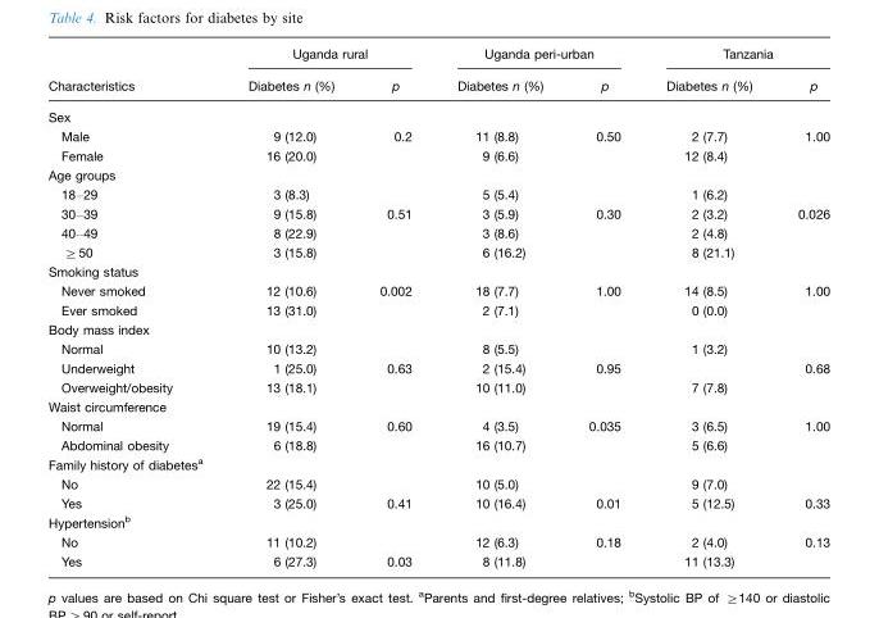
<table><thead><tr><td rowspan="2">Characteristics</td><td colspan="2">Uganda rural</td><td colspan="2">Uganda peri-urban</td><td colspan="2">Tanzania</td></tr><tr><td>Diabetes n (%)</td><td>p</td><td>Diabetes n (%)</td><td>p</td><td>Diabetes n (%)</td><td>p</td></tr></thead><tbody><tr><td colspan="7">Sex</td></tr><tr><td>Male</td><td>9 (12.0)</td><td>0.2</td><td>11 (8.8)</td><td>0.50</td><td>2 (7.7)</td><td>1.00</td></tr><tr><td>Female</td><td>16 (20.0)</td><td></td><td>9 (6.6)</td><td></td><td>12 (8.4)</td><td></td></tr><tr><td colspan="7">Age groups</td></tr><tr><td>18–29</td><td>3 (8.3)</td><td></td><td>5 (5.4)</td><td></td><td>1 (6.2)</td><td></td></tr><tr><td>30–39</td><td>9 (15.8)</td><td>0.51</td><td>3 (5.9)</td><td>0.30</td><td>2 (3.2)</td><td>0.026</td></tr><tr><td>40–49</td><td>8 (22.9)</td><td></td><td>3 (8.6)</td><td></td><td>2 (4.8)</td><td></td></tr><tr><td>≥50</td><td>3 (15.8)</td><td></td><td>6 (16.2)</td><td></td><td>8 (21.1)</td><td></td></tr><tr><td colspan="7">Smoking status</td></tr><tr><td>Never smoked</td><td>12 (10.6)</td><td>0.002</td><td>18 (7.7)</td><td>1.00</td><td>14 (8.5)</td><td>1.00</td></tr><tr><td>Ever smoked</td><td>13 (31.0)</td><td></td><td>2 (7.1)</td><td></td><td>0 (0.0)</td><td></td></tr><tr><td colspan="7">Body mass index</td></tr><tr><td>Normal</td><td>10 (13.2)</td><td></td><td>8 (5.5)</td><td></td><td>1 (3.2)</td><td></td></tr><tr><td>Underweight</td><td>1 (25.0)</td><td>0.63</td><td>2 (15.4)</td><td>0.95</td><td></td><td>0.68</td></tr><tr><td>Overweight/obesity</td><td>13 (18.1)</td><td></td><td>10 (11.0)</td><td></td><td>7 (7.8)</td><td></td></tr><tr><td colspan="7">Waist circumference</td></tr><tr><td>Normal</td><td>19 (15.4)</td><td>0.60</td><td>4 (3.5)</td><td>0.035</td><td>3 (6.5)</td><td>1.00</td></tr><tr><td>Abdominal obesity</td><td>6 (18.8)</td><td></td><td>16 (10.7)</td><td></td><td>5 (6.6)</td><td></td></tr><tr><td colspan="7">Family history of diabetes<sup>a</sup></td></tr><tr><td>No</td><td>22 (15.4)</td><td></td><td>10 (5.0)</td><td></td><td>9 (7.0)</td><td></td></tr><tr><td>Yes</td><td>3 (25.0)</td><td>0.41</td><td>10 (16.4)</td><td>0.01</td><td>5 (12.5)</td><td>0.33</td></tr><tr><td colspan="7">Hypertension<sup>b</sup></td></tr><tr><td>No</td><td>11 (10.2)</td><td></td><td>12 (6.3)</td><td>0.18</td><td>2 (4.0)</td><td>0.13</td></tr><tr><td>Yes</td><td>6 (27.3)</td><td>0.03</td><td>8 (11.8)</td><td></td><td>11 (13.3)</td><td></td></tr></tbody></table>